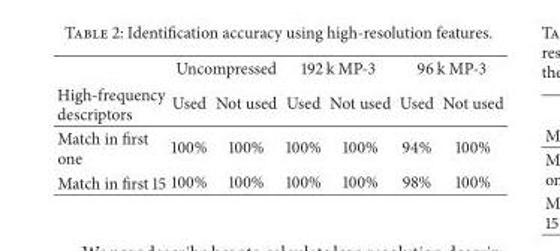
<table><thead><tr><td rowspan="2">High-frequency descriptors</td><td colspan="2">Uncompressed</td><td colspan="2">192 k MP-3</td><td colspan="2">96 k MP-3</td></tr><tr><td>Used</td><td>Not used</td><td>Used</td><td>Not used</td><td>Used</td><td>Not used</td></tr></thead><tbody><tr><td>Match in first one</td><td>100%</td><td>100%</td><td>100%</td><td>100%</td><td>94%</td><td>100%</td></tr><tr><td>Match in first 15</td><td>100%</td><td>100%</td><td>100%</td><td>100%</td><td>98%</td><td>100%</td></tr></tbody></table>